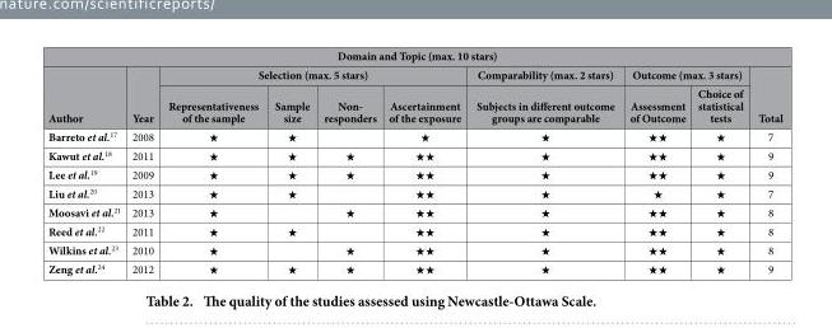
<table><thead><tr><td colspan="10">Domain and Topic (max. 10 stars)</td></tr><tr><td rowspan="2">Author</td><td rowspan="2">Year</td><td colspan="4">Selection (max. 5 stars)</td><td rowspan="2">Comparability (max. 2 stars) Subjects in different outcome groups are comparable</td><td colspan="2">Outcome (max. 3 stars)</td><td rowspan="2">Total</td></tr><tr><td>Representativeness of the sample</td><td>Sample size</td><td>Non- responders</td><td>Ascertainment of the exposure</td><td>Assessment of Outcome</td><td>Choice of statistical tests</td></tr></thead><tbody><tr><td>Barreto et al.<sup>17</sup></td><td>2008</td><td>★</td><td>★</td><td></td><td>★</td><td>★</td><td>★ ★</td><td>★</td><td>7</td></tr><tr><td>Kawut et al.<sup>18</sup></td><td>2011</td><td>★</td><td>★</td><td>★</td><td>★ ★</td><td>★</td><td>★ ★</td><td>★</td><td>9</td></tr><tr><td>Lee et al.<sup>19</sup></td><td>2009</td><td>★</td><td>★</td><td>★</td><td>★ ★</td><td>★</td><td>★ ★</td><td>★</td><td>9</td></tr><tr><td>Liu et al.<sup>20</sup></td><td>2013</td><td>★</td><td>★</td><td></td><td>★ ★</td><td>★</td><td>★</td><td>★</td><td>7</td></tr><tr><td>Moosavi et al.<sup>21</sup></td><td>2013</td><td>★</td><td></td><td>★</td><td>★ ★</td><td>★</td><td>★ ★</td><td>★</td><td>8</td></tr><tr><td>Reed et al.<sup>22</sup></td><td>2011</td><td>★</td><td>★</td><td></td><td>★ ★</td><td>★</td><td>★ ★</td><td>★</td><td>8</td></tr><tr><td>Wilkins et al.<sup>23</sup></td><td>2010</td><td>★</td><td></td><td>★</td><td>★ ★</td><td>★</td><td>★ ★</td><td>★</td><td>8</td></tr><tr><td>Zeng et al.<sup>24</sup></td><td>2012</td><td>★</td><td>★</td><td>★</td><td>★ ★</td><td>★</td><td>★ ★</td><td>★</td><td>9</td></tr></tbody></table>